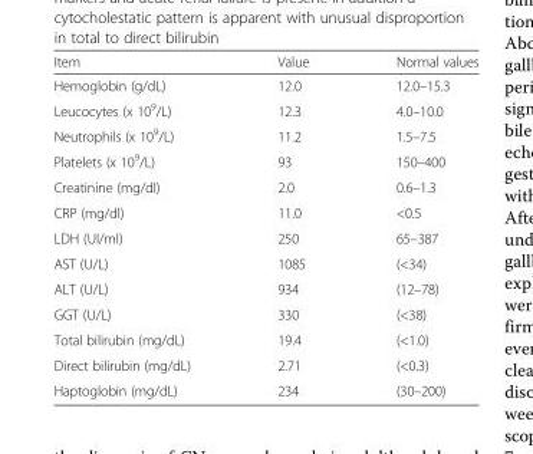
<table><thead><tr><td>Item</td><td>Value</td><td>Normal values</td></tr></thead><tbody><tr><td>Hemoglobin (g/dL)</td><td>12.0</td><td>12.0–15.3</td></tr><tr><td>Leucocytes (x 10<sup>9</sup>/L)</td><td>12.3</td><td>4.0–10.0</td></tr><tr><td>Neutrophils (x 10<sup>9</sup>/L)</td><td>11.2</td><td>1.5–7.5</td></tr><tr><td>Platelets (x 10<sup>9</sup>/L)</td><td>93</td><td>150–400</td></tr><tr><td>Creatinine (mg/dl)</td><td>2.0</td><td>0.6–1.3</td></tr><tr><td>CRP (mg/dl)</td><td>11.0</td><td>&lt;0.5</td></tr><tr><td>LDH (UI/ml)</td><td>250</td><td>65–387</td></tr><tr><td>AST (U/L)</td><td>1085</td><td>(&lt;34)</td></tr><tr><td>ALT (U/L)</td><td>934</td><td>(12–78)</td></tr><tr><td>GGT (U/L)</td><td>330</td><td>(&lt;38)</td></tr><tr><td>Total bilirubin (mg/dL)</td><td>19.4</td><td>(&lt;1.0)</td></tr><tr><td>Direct bilirubin (mg/dL)</td><td>2.71</td><td>(&lt;0.3)</td></tr><tr><td>Haptoglobin (mg/dL)</td><td>234</td><td>(30–200)</td></tr></tbody></table>